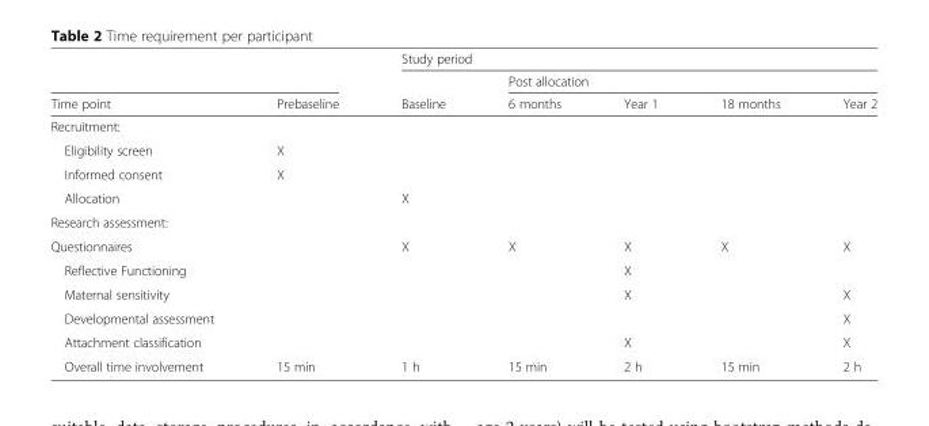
<table><thead><tr><td rowspan="3">Time point</td><td rowspan="3">Prebaseline</td><td colspan="5">Study period</td></tr><tr><td rowspan="2">Baseline</td><td colspan="4">Post allocation</td></tr><tr><td>6 months</td><td>Year 1</td><td>18 months</td><td>Year 2</td></tr></thead><tbody><tr><td colspan="7">Recruitment:</td></tr><tr><td>Eligibility screen</td><td>X</td><td></td><td></td><td></td><td></td><td></td></tr><tr><td>Informed consent</td><td>X</td><td></td><td></td><td></td><td></td><td></td></tr><tr><td>Allocation</td><td></td><td>X</td><td></td><td></td><td></td><td></td></tr><tr><td colspan="7">Research assessment:</td></tr><tr><td>Questionnaires</td><td></td><td>X</td><td>X</td><td>X</td><td>X</td><td>X</td></tr><tr><td>Reflective Functioning</td><td></td><td></td><td></td><td>X</td><td></td><td></td></tr><tr><td>Maternal sensitivity</td><td></td><td></td><td></td><td>X</td><td></td><td>X</td></tr><tr><td>Developmental assessment</td><td></td><td></td><td></td><td></td><td></td><td>X</td></tr><tr><td>Attachment classification</td><td></td><td></td><td></td><td>X</td><td></td><td>X</td></tr><tr><td>Overall time involvement</td><td>15 min</td><td>1 h</td><td>15 min</td><td>2 h</td><td>15 min</td><td>2 h</td></tr></tbody></table>